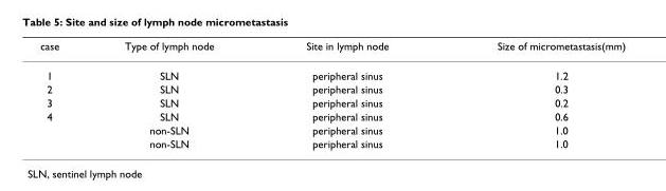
<table><thead><tr><td>case</td><td>Type of lymph node</td><td>Site in lymph node</td><td>Size of micrometastasis(mm)</td></tr></thead><tbody><tr><td>1</td><td>SLN</td><td>peripheral sinus</td><td>1.2</td></tr><tr><td>2</td><td>SLN</td><td>peripheral sinus</td><td>0.3</td></tr><tr><td>3</td><td>SLN</td><td>peripheral sinus</td><td>0.2</td></tr><tr><td rowspan="3">4</td><td>SLN</td><td>peripheral sinus</td><td>0.6</td></tr><tr><td>non-SLN</td><td>peripheral sinus</td><td>1.0</td></tr><tr><td>non-SLN</td><td>peripheral sinus</td><td>1.0</td></tr></tbody></table>